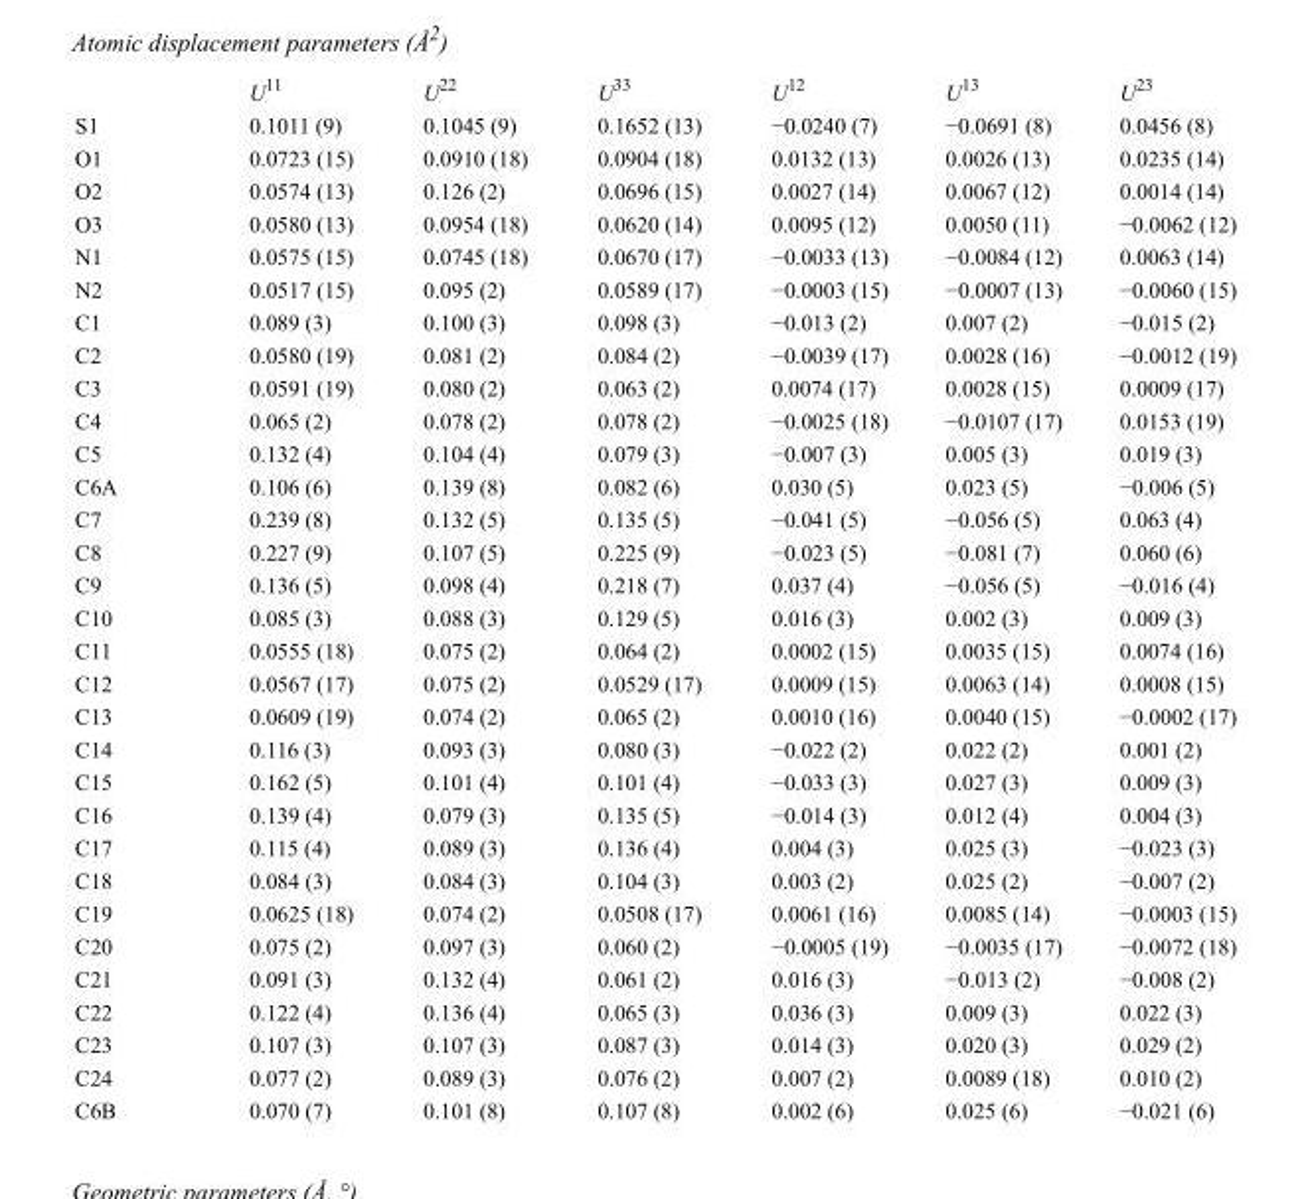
<table><thead><tr><td></td><td>U<sup>11</sup></td><td>U<sup>22</sup></td><td>U<sup>33</sup></td><td>U<sup>12</sup></td><td>U<sup>13</sup></td><td>U<sup>23</sup></td></tr></thead><tbody><tr><td>S1</td><td>0.1011 (9)</td><td>0.1045 (9)</td><td>0.1652 (13)</td><td>−0.0240 (7)</td><td>−0.0691 (8)</td><td>0.0456 (8)</td></tr><tr><td>O1</td><td>0.0723 (15)</td><td>0.0910 (18)</td><td>0.0904 (18)</td><td>0.0132 (13)</td><td>0.0026 (13)</td><td>0.0235 (14)</td></tr><tr><td>O2</td><td>0.0574 (13)</td><td>0.126 (2)</td><td>0.0696 (15)</td><td>0.0027 (14)</td><td>0.0067 (12)</td><td>0.0014 (14)</td></tr><tr><td>O3</td><td>0.0580 (13)</td><td>0.0954 (18)</td><td>0.0620 (14)</td><td>0.0095 (12)</td><td>0.0050 (11)</td><td>−0.0062 (12)</td></tr><tr><td>N1</td><td>0.0575 (15)</td><td>0.0745 (18)</td><td>0.0670 (17)</td><td>−0.0033 (13)</td><td>−0.0084 (12)</td><td>0.0063 (14)</td></tr><tr><td>N2</td><td>0.0517 (15)</td><td>0.095 (2)</td><td>0.0589 (17)</td><td>−0.0003 (15)</td><td>−0.0007 (13)</td><td>−0.0060 (15)</td></tr><tr><td>C1</td><td>0.089 (3)</td><td>0.100 (3)</td><td>0.098 (3)</td><td>−0.013 (2)</td><td>0.007 (2)</td><td>−0.015 (2)</td></tr><tr><td>C2</td><td>0.0580 (19)</td><td>0.081 (2)</td><td>0.084 (2)</td><td>−0.0039 (17)</td><td>0.0028 (16)</td><td>−0.0012 (19)</td></tr><tr><td>C3</td><td>0.0591 (19)</td><td>0.080 (2)</td><td>0.063 (2)</td><td>0.0074 (17)</td><td>0.0028 (15)</td><td>0.0009 (17)</td></tr><tr><td>C4</td><td>0.065 (2)</td><td>0.078 (2)</td><td>0.078 (2)</td><td>−0.0025 (18)</td><td>−0.0107 (17)</td><td>0.0153 (19)</td></tr><tr><td>C5</td><td>0.132 (4)</td><td>0.104 (4)</td><td>0.079 (3)</td><td>−0.007 (3)</td><td>0.005 (3)</td><td>0.019 (3)</td></tr><tr><td>C6A</td><td>0.106 (6)</td><td>0.139 (8)</td><td>0.082 (6)</td><td>0.030 (5)</td><td>0.023 (5)</td><td>−0.006 (5)</td></tr><tr><td>C7</td><td>0.239 (8)</td><td>0.132 (5)</td><td>0.135 (5)</td><td>−0.041 (5)</td><td>−0.056 (5)</td><td>0.063 (4)</td></tr><tr><td>C8</td><td>0.227 (9)</td><td>0.107 (5)</td><td>0.225 (9)</td><td>−0.023 (5)</td><td>−0.081 (7)</td><td>0.060 (6)</td></tr><tr><td>C9</td><td>0.136 (5)</td><td>0.098 (4)</td><td>0.218 (7)</td><td>0.037 (4)</td><td>−0.056 (5)</td><td>−0.016 (4)</td></tr><tr><td>C10</td><td>0.085 (3)</td><td>0.088 (3)</td><td>0.129 (5)</td><td>0.016 (3)</td><td>0.002 (3)</td><td>0.009 (3)</td></tr><tr><td>C11</td><td>0.0555 (18)</td><td>0.075 (2)</td><td>0.064 (2)</td><td>0.0002 (15)</td><td>0.0035 (15)</td><td>0.0074 (16)</td></tr><tr><td>C12</td><td>0.0567 (17)</td><td>0.075 (2)</td><td>0.0529 (17)</td><td>0.0009 (15)</td><td>0.0063 (14)</td><td>0.0008 (15)</td></tr><tr><td>C13</td><td>0.0609 (19)</td><td>0.074 (2)</td><td>0.065 (2)</td><td>0.0010 (16)</td><td>0.0040 (15)</td><td>−0.0002 (17)</td></tr><tr><td>C14</td><td>0.116 (3)</td><td>0.093 (3)</td><td>0.080 (3)</td><td>−0.022 (2)</td><td>0.022 (2)</td><td>0.001 (2)</td></tr><tr><td>C15</td><td>0.162 (5)</td><td>0.101 (4)</td><td>0.101 (4)</td><td>−0.033 (3)</td><td>0.027 (3)</td><td>0.009 (3)</td></tr><tr><td>C16</td><td>0.139 (4)</td><td>0.079 (3)</td><td>0.135 (5)</td><td>−0.014 (3)</td><td>0.012 (4)</td><td>0.004 (3)</td></tr><tr><td>C17</td><td>0.115 (4)</td><td>0.089 (3)</td><td>0.136 (4)</td><td>0.004 (3)</td><td>0.025 (3)</td><td>−0.023 (3)</td></tr><tr><td>C18</td><td>0.084 (3)</td><td>0.084 (3)</td><td>0.104 (3)</td><td>0.003 (2)</td><td>0.025 (2)</td><td>−0.007 (2)</td></tr><tr><td>C19</td><td>0.0625 (18)</td><td>0.074 (2)</td><td>0.0508 (17)</td><td>0.0061 (16)</td><td>0.0085 (14)</td><td>−0.0003 (15)</td></tr><tr><td>C20</td><td>0.075 (2)</td><td>0.097 (3)</td><td>0.060 (2)</td><td>−0.0005 (19)</td><td>−0.0035 (17)</td><td>−0.0072 (18)</td></tr><tr><td>C21</td><td>0.091 (3)</td><td>0.132 (4)</td><td>0.061 (2)</td><td>0.016 (3)</td><td>−0.013 (2)</td><td>−0.008 (2)</td></tr><tr><td>C22</td><td>0.122 (4)</td><td>0.136 (4)</td><td>0.065 (3)</td><td>0.036 (3)</td><td>0.009 (3)</td><td>0.022 (3)</td></tr><tr><td>C23</td><td>0.107 (3)</td><td>0.107 (3)</td><td>0.087 (3)</td><td>0.014 (3)</td><td>0.020 (3)</td><td>0.029 (2)</td></tr><tr><td>C24</td><td>0.077 (2)</td><td>0.089 (3)</td><td>0.076 (2)</td><td>0.007 (2)</td><td>0.0089 (18)</td><td>0.010 (2)</td></tr><tr><td>C6B</td><td>0.070 (7)</td><td>0.101 (8)</td><td>0.107 (8)</td><td>0.002 (6)</td><td>0.025 (6)</td><td>−0.021 (6)</td></tr></tbody></table>